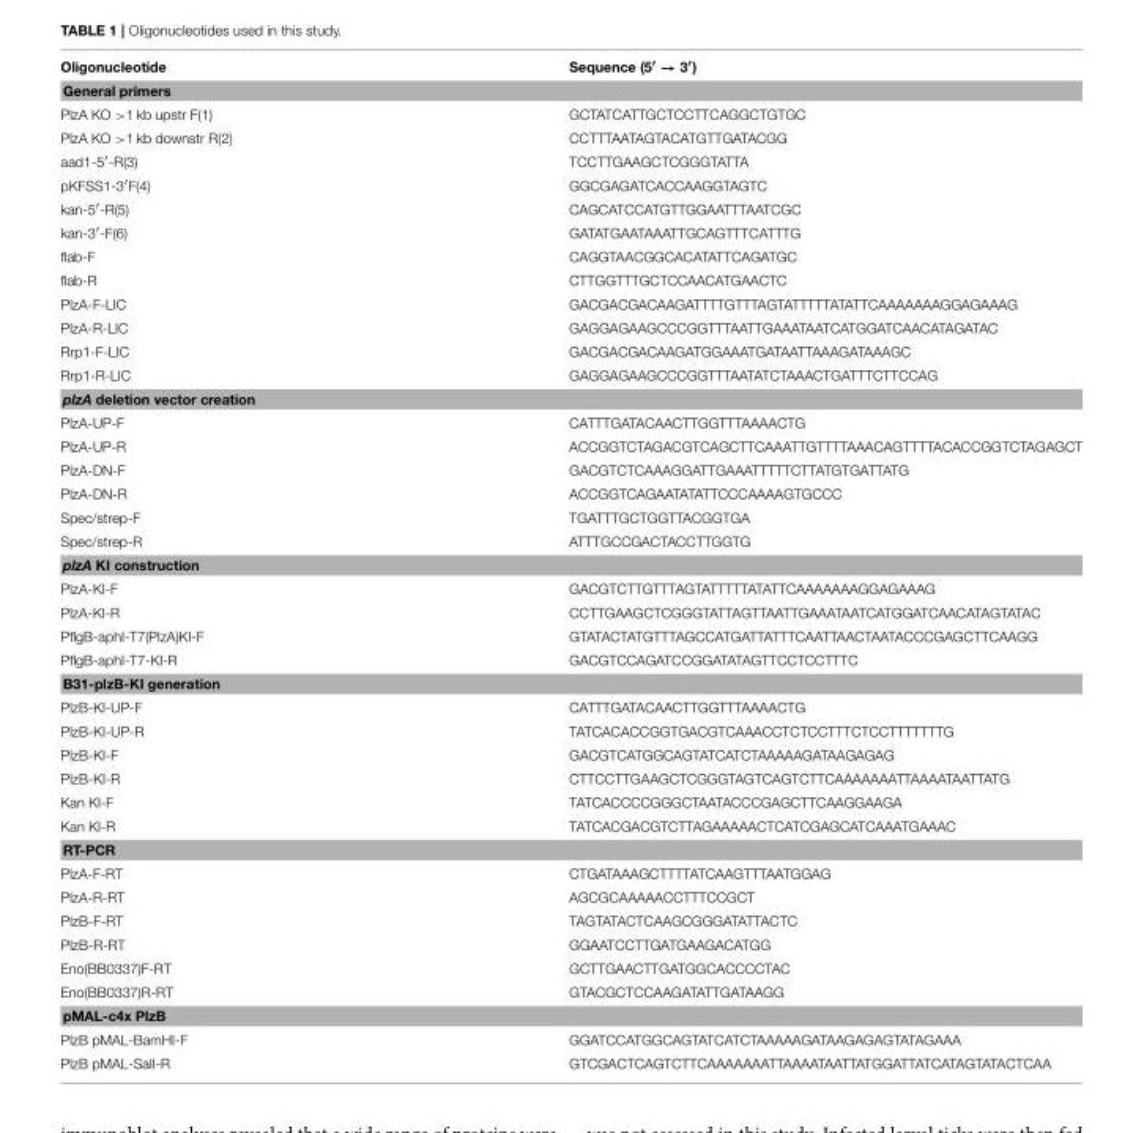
<table><tbody><tr><td>Oligonucleotide</td><td>Sequence (5<sup>′</sup> → 3<sup>′</sup>)</td></tr><tr><td colspan="2">General primers</td></tr><tr><td>PlzA KO &gt;1 kb upstr F(1)</td><td>GCTATCATTGCTCCTTCAGGCTGTGC</td></tr><tr><td>PlzA KO &gt;1 kb downstr R(2)</td><td>CCTTTAATAGTACATGTTGATACGG</td></tr><tr><td>aad1-5<sup>′</sup>-R(3)</td><td>TCCTTGAAGCTCGGGTATTA</td></tr><tr><td>pKFSS1-3<sup>′</sup>F(4)</td><td>GGCGAGATCACCAAGGTAGTC</td></tr><tr><td>kan-5<sup>′</sup>-R(5)</td><td>CAGCATCCATGTTGGAATTTAATCGC</td></tr><tr><td>kan-3<sup>′</sup>-F(6)</td><td>GATATGAATAAATTGCAGTTTCATTTG</td></tr><tr><td>flab-F</td><td>CAGGTAACGGCACATATTCAGATGC</td></tr><tr><td>flab-R</td><td>CTTGGTTTGCTCCAACATGAACTC</td></tr><tr><td>PlzA-F-LIC</td><td>GACGACGACAAGATTTTGTTTAGTATTTTTATATTCAAAAAAAGGAGAAAG</td></tr><tr><td>PlzA-R-LIC</td><td>GAGGAGAAGCCCGGTTTAATTGAAATAATCATGGATCAACATAGATAC</td></tr><tr><td>Rrp1-F-LIC</td><td>GACGACGACAAGATGGAAATGATAATTAAAGATAAAGC</td></tr><tr><td>Rrp1-R-LIC</td><td>GAGGAGAAGCCCGGTTTAATATCTAAACTGATTTCTTCCAG</td></tr><tr><td colspan="2">plzA deletion vector creation</td></tr><tr><td>PlzA-UP-F</td><td>CATTTGATACAACTTGGTTTAAAACTG</td></tr><tr><td>PlzA-UP-R</td><td>ACCGGTCTAGACGTCAGCTTCAAATTGTTTTAAACAGTTTTACACCGGTCTAGAGCT</td></tr><tr><td>PlzA-DN-F</td><td>GACGTCTCAAAGGATTGAAATTTTTCTTATGTGATTATG</td></tr><tr><td>PlzA-DN-R</td><td>ACCGGTCAGAATATATTCCCAAAAGTGCCC</td></tr><tr><td>Spec/strep-F</td><td>TGATTTGCTGGTTACGGTGA</td></tr><tr><td>Spec/strep-R</td><td>ATTTGCCGACTACCTTGGTG</td></tr><tr><td colspan="2">plzA KI construction</td></tr><tr><td>PlzA-KI-F</td><td>GACGTCTTGTTTAGTATTTTTATATTCAAAAAAAGGAGAAAG</td></tr><tr><td>PlzA-KI-R</td><td>CCTTGAAGCTCGGGTATTAGTTAATTGAAATAATCATGGATCAACATAGTATAC</td></tr><tr><td>PflgB-aphI-T7(PlzA)KI-F</td><td>GTATACTATGTTTAGCCATGATTATTTCAATTAACTAATACCCGAGCTTCAAGG</td></tr><tr><td>PflgB-aphI-T7-KI-R</td><td>GACGTCCAGATCCGGATATAGTTCCTCCTTTC</td></tr><tr><td colspan="2">B31-plzB-KI generation</td></tr><tr><td>PlzB-KI-UP-F</td><td>CATTTGATACAACTTGGTTTAAAACTG</td></tr><tr><td>PlzB-KI-UP-R</td><td>TATCACACCGGTGACGTCAAACCTCTCCTTTCTCCTTTTTTTG</td></tr><tr><td>PlzB-KI-F</td><td>GACGTCATGGCAGTATCATCTAAAAAGATAAGAGAG</td></tr><tr><td>PlzB-KI-R</td><td>CTTCCTTGAAGCTCGGGTAGTCAGTCTTCAAAAAAATTAAAATAATTATG</td></tr><tr><td>Kan KI-F</td><td>TATCACCCCGGGCTAATACCCGAGCTTCAAGGAAGA</td></tr><tr><td>Kan KI-R</td><td>TATCACGACGTCTTAGAAAAACTCATCGAGCATCAAATGAAAC</td></tr><tr><td colspan="2">RT-PCR</td></tr><tr><td>PlzA-F-RT</td><td>CTGATAAAGCTTTTATCAAGTTTAATGGAG</td></tr><tr><td>PlzA-R-RT</td><td>AGCGCAAAAACCTTTCCGCT</td></tr><tr><td>PlzB-F-RT</td><td>TAGTATACTCAAGCGGGATATTACTC</td></tr><tr><td>PlzB-R-RT</td><td>GGAATCCTTGATGAAGACATGG</td></tr><tr><td>Eno(BB0337)F-RT</td><td>GCTTGAACTTGATGGCACCCCTAC</td></tr><tr><td>Eno(BB0337)R-RT</td><td>GTACGCTCCAAGATATTGATAAGG</td></tr><tr><td colspan="2">pMAL-c4x PlzB</td></tr><tr><td>PlzB pMAL-BamHI-F</td><td>GGATCCATGGCAGTATCATCTAAAAAGATAAGAGAGTATAGAAA</td></tr><tr><td>PlzB pMAL-SalI-R</td><td>GTCGACTCAGTCTTCAAAAAAATTAAAATAATTATGGATTATCATAGTATACTCAA</td></tr></tbody></table>